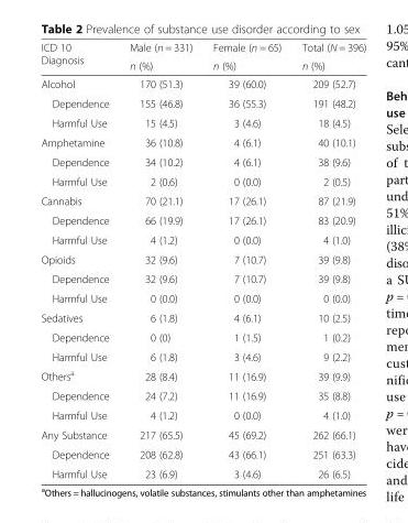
<table><thead><tr><td rowspan="2">ICD 10 Diagnosis</td><td rowspan="2">Male (n = 331) n (%)</td><td rowspan="2">Female (n = 65) n (%)</td><td rowspan="2">Total (N = 396) n (%)</td></tr><tr></tr></thead><tbody><tr><td>Alcohol</td><td>170 (51.3)</td><td>39 (60.0)</td><td>209 (52.7)</td></tr><tr><td>Dependence</td><td>155 (46.8)</td><td>36 (55.3)</td><td>191 (48.2)</td></tr><tr><td>Harmful Use</td><td>15 (4.5)</td><td>3 (4.6)</td><td>18 (4.5)</td></tr><tr><td>Amphetamine</td><td>36 (10.8)</td><td>4 (6.1)</td><td>40 (10.1)</td></tr><tr><td>Dependence</td><td>34 (10.2)</td><td>4 (6.1)</td><td>38 (9.6)</td></tr><tr><td>Harmful Use</td><td>2 (0.6)</td><td>0 (0.0)</td><td>2 (0.5)</td></tr><tr><td>Cannabis</td><td>70 (21.1)</td><td>17 (26.1)</td><td>87 (21.9)</td></tr><tr><td>Dependence</td><td>66 (19.9)</td><td>17 (26.1)</td><td>83 (20.9)</td></tr><tr><td>Harmful Use</td><td>4 (1.2)</td><td>0 (0.0)</td><td>4 (1.0)</td></tr><tr><td>Opioids</td><td>32 (9.6)</td><td>7 (10.7)</td><td>39 (9.8)</td></tr><tr><td>Dependence</td><td>32 (9.6)</td><td>7 (10.7)</td><td>39 (9.8)</td></tr><tr><td>Harmful Use</td><td>0 (0.0)</td><td>0 (0.0)</td><td>0 (0.0)</td></tr><tr><td>Sedatives</td><td>6 (1.8)</td><td>4 (6.1)</td><td>10 (2.5)</td></tr><tr><td>Dependence</td><td>0 (0)</td><td>1 (1.5)</td><td>1 (0.2)</td></tr><tr><td>Harmful Use</td><td>6 (1.8)</td><td>3 (4.6)</td><td>9 (2.2)</td></tr><tr><td>Others<sup>a</sup></td><td>28 (8.4)</td><td>11 (16.9)</td><td>39 (9.9)</td></tr><tr><td>Dependence</td><td>24 (7.2)</td><td>11 (16.9)</td><td>35 (8.8)</td></tr><tr><td>Harmful Use</td><td>4 (1.2)</td><td>0 (0.0)</td><td>4 (1.0)</td></tr><tr><td>Any Substance</td><td>217 (65.5)</td><td>45 (69.2)</td><td>262 (66.1)</td></tr><tr><td>Dependence</td><td>208 (62.8)</td><td>43 (66.1)</td><td>251 (63.3)</td></tr><tr><td>Harmful Use</td><td>23 (6.9)</td><td>3 (4.6)</td><td>26 (6.5)</td></tr></tbody></table>